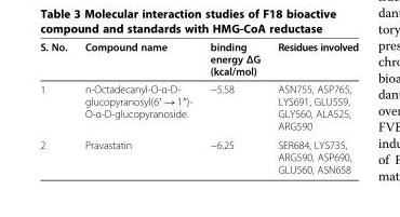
<table><thead><tr><td>S. No.</td><td>Compound name</td><td>binding energy ΔG (kcal/mol)</td><td>Residues involved</td></tr></thead><tbody><tr><td>1</td><td>n-Octadecanyl-O-α-D- glucopyranosyl(6′ → 1″)- O-α-D-glucopyranoside.</td><td>−5.58</td><td>ASN755, ASP765, LYS691, GLU559, GLY560, ALA525, ARG590</td></tr><tr><td>2</td><td>Pravastatin</td><td>−6.25</td><td>SER684, LYS735, ARG590, ASP690, GLU560, ASN658</td></tr></tbody></table>